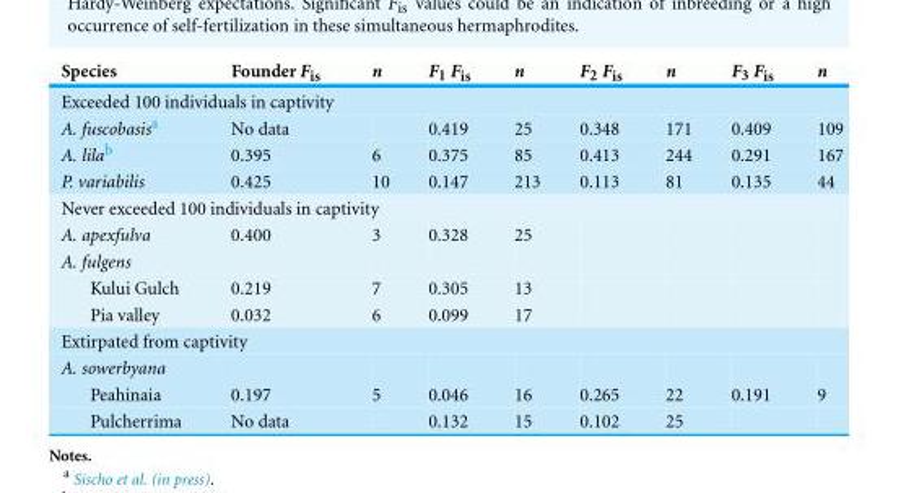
<table><thead><tr><td>Species</td><td>Founder F<sub>is</sub></td><td>n</td><td>F<sub>1</sub> F<sub>is</sub></td><td>n</td><td>F<sub>2</sub> F<sub>is</sub></td><td>n</td><td>F<sub>3</sub> F<sub>is</sub></td><td>n</td></tr></thead><tbody><tr><td colspan="9">Exceeded 100 individuals in captivity</td></tr><tr><td>A. fuscobasis<sup>a</sup></td><td>No data</td><td></td><td>0.419</td><td>25</td><td>0.348</td><td>171</td><td>0.409</td><td>109</td></tr><tr><td>A. lila<sup>b</sup></td><td>0.395</td><td>6</td><td>0.375</td><td>85</td><td>0.413</td><td>244</td><td>0.291</td><td>167</td></tr><tr><td>P. variabilis</td><td>0.425</td><td>10</td><td>0.147</td><td>213</td><td>0.113</td><td>81</td><td>0.135</td><td>44</td></tr><tr><td colspan="9">Never exceeded 100 individuals in captivity</td></tr><tr><td>A. apexfulva</td><td>0.400</td><td>3</td><td>0.328</td><td>25</td><td></td><td></td><td></td><td></td></tr><tr><td colspan="9">A. fulgens</td></tr><tr><td>Kului Gulch</td><td>0.219</td><td>7</td><td>0.305</td><td>13</td><td></td><td></td><td></td><td></td></tr><tr><td>Pia valley</td><td>0.032</td><td>6</td><td>0.099</td><td>17</td><td></td><td></td><td></td><td></td></tr><tr><td colspan="9">Extirpated from captivity</td></tr><tr><td colspan="9">A. sowerbyana</td></tr><tr><td>Peahinaia</td><td>0.197</td><td>5</td><td>0.046</td><td>16</td><td>0.265</td><td>22</td><td>0.191</td><td>9</td></tr><tr><td>Pulcherrima</td><td>No data</td><td></td><td>0.132</td><td>15</td><td>0.102</td><td>25</td><td></td><td></td></tr></tbody></table>